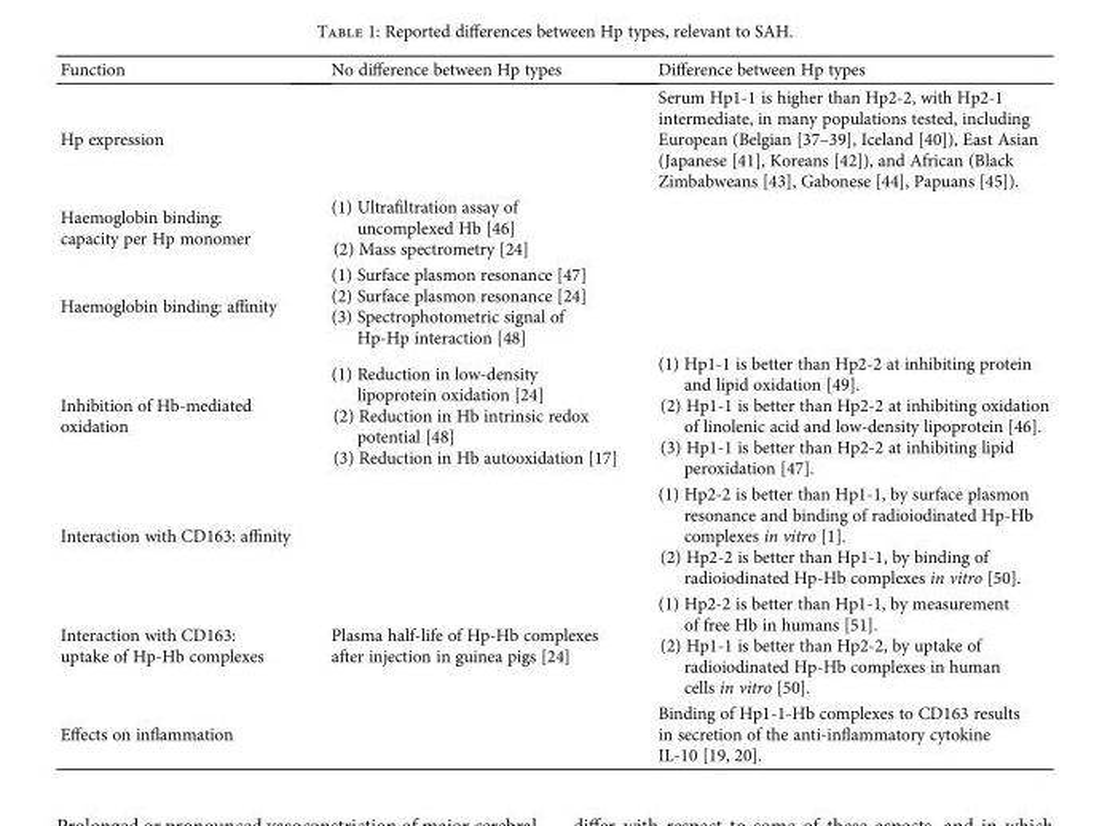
<table><thead><tr><td>Function</td><td>No difference between Hp types</td><td>Difference between Hp types</td></tr></thead><tbody><tr><td>Hp expression</td><td></td><td>Serum Hp1-1 is higher than Hp2-2, with Hp2-1 intermediate, in many populations tested, including European (Belgian [37–39], Iceland [40]), East Asian (Japanese [41], Koreans [42]), and African (Black Zimbabweans [43], Gabonese [44], Papuans [45]).</td></tr><tr><td>Haemoglobin binding: capacity per Hp monomer</td><td>(1) Ultrafiltration assay of uncomplexed Hb [46] (2) Mass spectrometry [24]</td><td></td></tr><tr><td>Haemoglobin binding: affinity</td><td>(1) Surface plasmon resonance [47] (2) Surface plasmon resonance [24] (3) Spectrophotometric signal of Hp-Hp interaction [48]</td><td></td></tr><tr><td>Inhibition of Hb-mediated oxidation</td><td>(1) Reduction in low-density lipoprotein oxidation [24] (2) Reduction in Hb intrinsic redox potential [48] (3) Reduction in Hb autooxidation [17]</td><td>(1) Hp1-1 is better than Hp2-2 at inhibiting protein and lipid oxidation [49]. (2) Hp1-1 is better than Hp2-2 at inhibiting oxidation of linolenic acid and low-density lipoprotein [46]. (3) Hp1-1 is better than Hp2-2 at inhibiting lipid peroxidation [47].</td></tr><tr><td>Interaction with CD163: affinity</td><td></td><td>(1) Hp2-2 is better than Hp1-1, by surface plasmon resonance and binding of radioiodinated Hp-Hb complexes in vitro [1]. (2) Hp2-2 is better than Hp1-1, by binding of radioiodinated Hp-Hb complexes in vitro [50].</td></tr><tr><td>Interaction with CD163: uptake of Hp-Hb complexes</td><td>Plasma half-life of Hp-Hb complexes after injection in guinea pigs [24]</td><td>(1) Hp2-2 is better than Hp1-1, by measurement of free Hb in humans [51]. (2) Hp1-1 is better than Hp2-2, by uptake of radioiodinated Hp-Hb complexes in human cells in vitro [50].</td></tr><tr><td>Effects on inflammation</td><td></td><td>Binding of Hp1-1-Hb complexes to CD163 results in secretion of the anti-inflammatory cytokine IL-10 [19, 20].</td></tr></tbody></table>